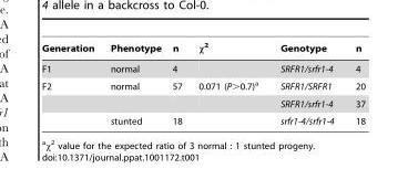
<table><thead><tr><td>Generation</td><td>Phenotype</td><td>n</td><td>χ<sup>2</sup></td><td>Genotype</td><td>n</td></tr></thead><tbody><tr><td>F1</td><td>normal</td><td>4</td><td></td><td>SRFR1/srfr1-4</td><td>4</td></tr><tr><td rowspan="3">F2</td><td>normal</td><td>57</td><td>0.071 (P&gt;0.7)<sup>a</sup></td><td>SRFR1/SRFR1</td><td>20</td></tr><tr><td></td><td></td><td></td><td>SRFR1/srfr1-4</td><td>37</td></tr><tr><td>stunted</td><td>18</td><td></td><td>srfr1-4/srfr1-4</td><td>18</td></tr></tbody></table>